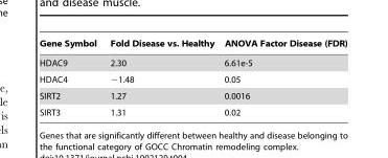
<table><thead><tr><td>Gene Symbol</td><td>Fold Disease vs. Healthy</td><td>ANOVA Factor Disease (FDR)</td></tr></thead><tbody><tr><td>HDAC9</td><td>2.30</td><td>6.61e-5</td></tr><tr><td>HDAC4</td><td>−1.48</td><td>0.05</td></tr><tr><td>SIRT2</td><td>1.27</td><td>0.0016</td></tr><tr><td>SIRT3</td><td>1.31</td><td>0.02</td></tr></tbody></table>